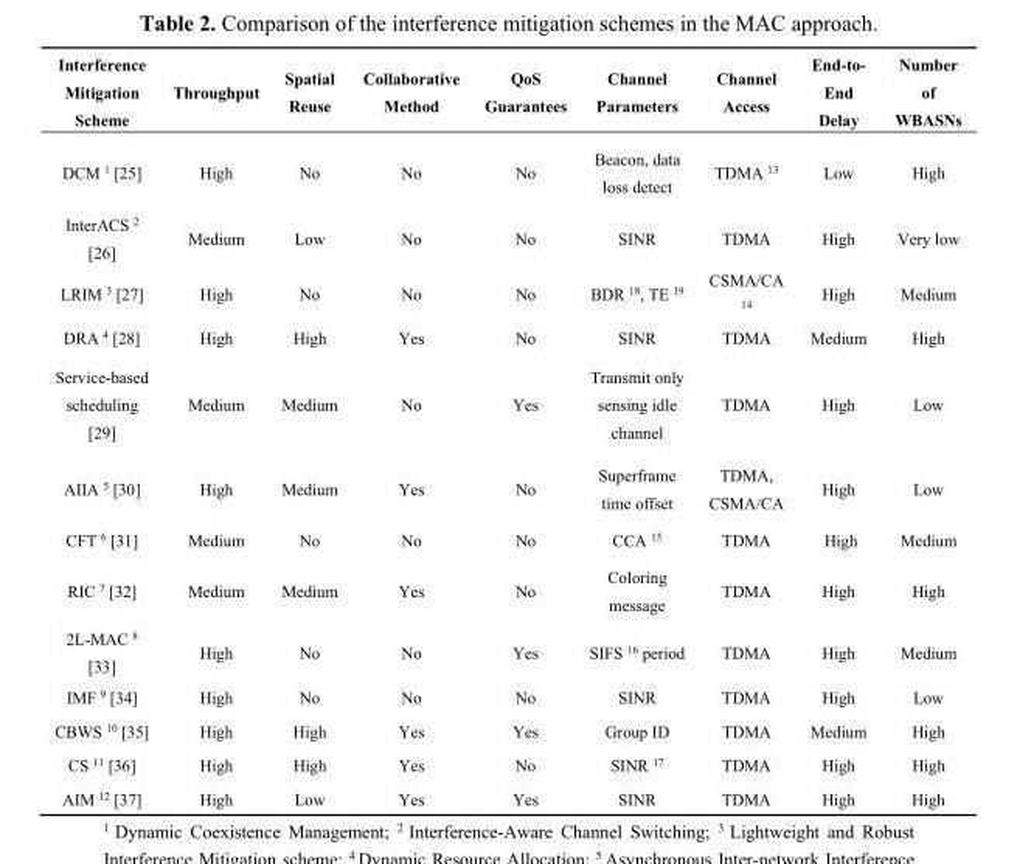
<table><thead><tr><td>Interference Mitigation Scheme</td><td>Throughput</td><td>Spatial Reuse</td><td>Collaborative Method</td><td>QoS Guarantees</td><td>Channel Parameters</td><td>Channel Access</td><td>End-to- End Delay</td><td>Number of WBASNs</td></tr></thead><tbody><tr><td>DCM <sup>1</sup> [25]</td><td>High</td><td>No</td><td>No</td><td>No</td><td>Beacon, data loss detect</td><td>TDMA <sup>13</sup></td><td>Low</td><td>High</td></tr><tr><td>InterACS <sup>2</sup> [26]</td><td>Medium</td><td>Low</td><td>No</td><td>No</td><td>SINR</td><td>TDMA</td><td>High</td><td>Very low</td></tr><tr><td>LRIM <sup>3</sup> [27]</td><td>High</td><td>No</td><td>No</td><td>No</td><td>BDR <sup>18</sup>, TE <sup>19</sup></td><td>CSMA/CA <sup>14</sup></td><td>High</td><td>Medium</td></tr><tr><td>DRA <sup>4</sup> [28]</td><td>High</td><td>High</td><td>Yes</td><td>No</td><td>SINR</td><td>TDMA</td><td>Medium</td><td>High</td></tr><tr><td>Service-based scheduling [29]</td><td>Medium</td><td>Medium</td><td>No</td><td>Yes</td><td>Transmit only sensing idle channel</td><td>TDMA</td><td>High</td><td>Low</td></tr><tr><td>AIIA <sup>5</sup> [30]</td><td>High</td><td>Medium</td><td>Yes</td><td>No</td><td>Superframe time offset</td><td>TDMA, CSMA/CA</td><td>High</td><td>Low</td></tr><tr><td>CFT <sup>6</sup> [31]</td><td>Medium</td><td>No</td><td>No</td><td>No</td><td>CCA <sup>15</sup></td><td>TDMA</td><td>High</td><td>Medium</td></tr><tr><td>RIC <sup>7</sup> [32]</td><td>Medium</td><td>Medium</td><td>Yes</td><td>No</td><td>Coloring message</td><td>TDMA</td><td>High</td><td>High</td></tr><tr><td>2L-MAC <sup>8</sup> [33]</td><td>High</td><td>No</td><td>No</td><td>Yes</td><td>SIFS <sup>16</sup> period</td><td>TDMA</td><td>High</td><td>Medium</td></tr><tr><td>IMF <sup>9</sup> [34]</td><td>High</td><td>No</td><td>No</td><td>No</td><td>SINR</td><td>TDMA</td><td>High</td><td>Low</td></tr><tr><td>CBWS <sup>10</sup> [35]</td><td>High</td><td>High</td><td>Yes</td><td>Yes</td><td>Group ID</td><td>TDMA</td><td>Medium</td><td>High</td></tr><tr><td>CS <sup>11</sup> [36]</td><td>High</td><td>High</td><td>Yes</td><td>No</td><td>SINR <sup>17</sup></td><td>TDMA</td><td>High</td><td>High</td></tr><tr><td>AIM <sup>12</sup> [37]</td><td>High</td><td>Low</td><td>Yes</td><td>Yes</td><td>SINR</td><td>TDMA</td><td>High</td><td>High</td></tr></tbody></table>